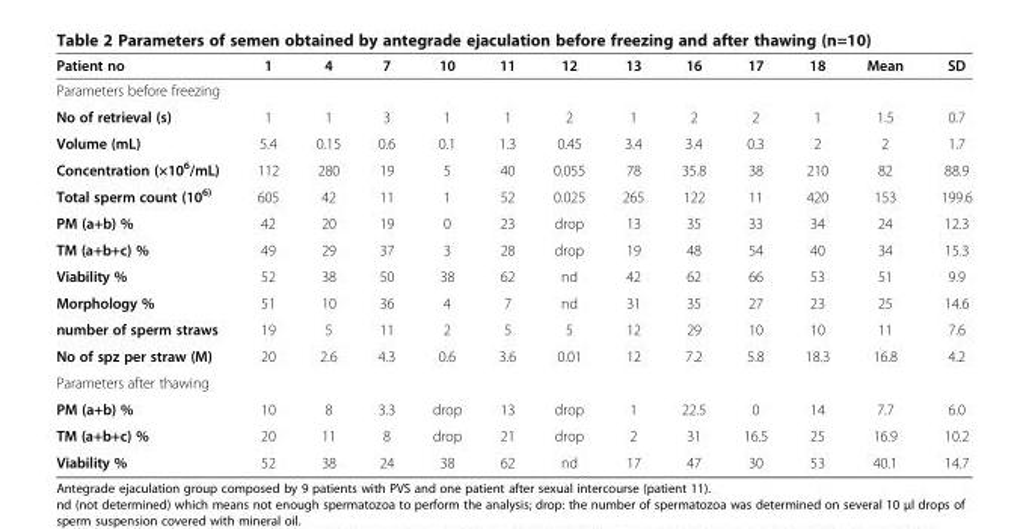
<table><thead><tr><td>Patient no</td><td>1</td><td>4</td><td>7</td><td>10</td><td>11</td><td>12</td><td>13</td><td>16</td><td>17</td><td>18</td><td>Mean</td><td>SD</td></tr></thead><tbody><tr><td colspan="13">Parameters before freezing</td></tr><tr><td>No of retrieval (s)</td><td>1</td><td>1</td><td>3</td><td>1</td><td>1</td><td>2</td><td>1</td><td>2</td><td>2</td><td>1</td><td>1.5</td><td>0.7</td></tr><tr><td>Volume (mL)</td><td>5.4</td><td>0.15</td><td>0.6</td><td>0.1</td><td>1.3</td><td>0.45</td><td>3.4</td><td>3.4</td><td>0.3</td><td>2</td><td>2</td><td>1.7</td></tr><tr><td>Concentration (×10<sup>6</sup>/mL)</td><td>112</td><td>280</td><td>19</td><td>5</td><td>40</td><td>0.055</td><td>78</td><td>35.8</td><td>38</td><td>210</td><td>82</td><td>88.9</td></tr><tr><td>Total sperm count (10<sup>6)</sup></td><td>605</td><td>42</td><td>11</td><td>1</td><td>52</td><td>0.025</td><td>265</td><td>122</td><td>11</td><td>420</td><td>153</td><td>199.6</td></tr><tr><td>PM (a+b) %</td><td>42</td><td>20</td><td>19</td><td>0</td><td>23</td><td>drop</td><td>13</td><td>35</td><td>33</td><td>34</td><td>24</td><td>12.3</td></tr><tr><td>TM (a+b+c) %</td><td>49</td><td>29</td><td>37</td><td>3</td><td>28</td><td>drop</td><td>19</td><td>48</td><td>54</td><td>40</td><td>34</td><td>15.3</td></tr><tr><td>Viability %</td><td>52</td><td>38</td><td>50</td><td>38</td><td>62</td><td>nd</td><td>42</td><td>62</td><td>66</td><td>53</td><td>51</td><td>9.9</td></tr><tr><td>Morphology %</td><td>51</td><td>10</td><td>36</td><td>4</td><td>7</td><td>nd</td><td>31</td><td>35</td><td>27</td><td>23</td><td>25</td><td>14.6</td></tr><tr><td>number of sperm straws</td><td>19</td><td>5</td><td>11</td><td>2</td><td>5</td><td>5</td><td>12</td><td>29</td><td>10</td><td>10</td><td>11</td><td>7.6</td></tr><tr><td>No of spz per straw (M)</td><td>20</td><td>2.6</td><td>4.3</td><td>0.6</td><td>3.6</td><td>0.01</td><td>12</td><td>7.2</td><td>5.8</td><td>18.3</td><td>16.8</td><td>4.2</td></tr><tr><td colspan="13">Parameters after thawing</td></tr><tr><td>PM (a+b) %</td><td>10</td><td>8</td><td>3.3</td><td>drop</td><td>13</td><td>drop</td><td>1</td><td>22.5</td><td>0</td><td>14</td><td>7.7</td><td>6.0</td></tr><tr><td>TM (a+b+c) %</td><td>20</td><td>11</td><td>8</td><td>drop</td><td>21</td><td>drop</td><td>2</td><td>31</td><td>16.5</td><td>25</td><td>16.9</td><td>10.2</td></tr><tr><td>Viability %</td><td>52</td><td>38</td><td>24</td><td>38</td><td>62</td><td>nd</td><td>17</td><td>47</td><td>30</td><td>53</td><td>40.1</td><td>14.7</td></tr></tbody></table>